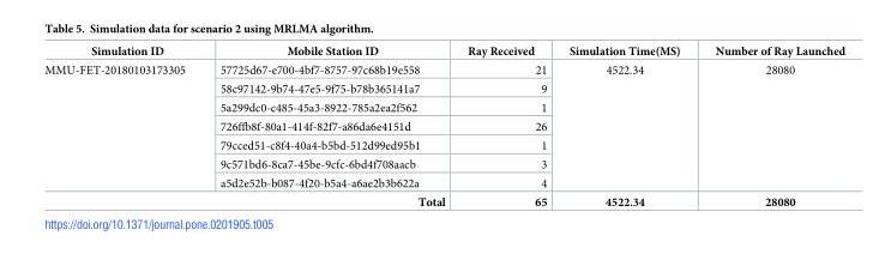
<table><thead><tr><td>Simulation ID</td><td>Mobile Station ID</td><td>Ray Received</td><td>Simulation Time(MS)</td><td>Number of Ray Launched</td></tr></thead><tbody><tr><td rowspan="7">MMU-FET-20180103173305</td><td>57725d67-e700-4bf7-8757-97c68b19e558</td><td>21</td><td rowspan="7">4522.34</td><td rowspan="7">28080</td></tr><tr><td>58c97142-9b74-47e5-9f75-b78b365141a7</td><td>9</td></tr><tr><td>5a299dc0-c485-45a3-8922-785a2ea2f562</td><td>1</td></tr><tr><td>726ffb8f-80a1-414f-82f7-a86da6e4151d</td><td>26</td></tr><tr><td>79cced51-c8f4-40a4-b5bd-512d99ed95b1</td><td>1</td></tr><tr><td>9c571bd6-8ca7-45be-9cfc-6bd4f708aacb</td><td>3</td></tr><tr><td>a5d2e52b-b087-4f20-b5a4-a6ae2b3b622a</td><td>4</td></tr><tr><td colspan="2">Total</td><td>65</td><td>4522.34</td><td>28080</td></tr></tbody></table>